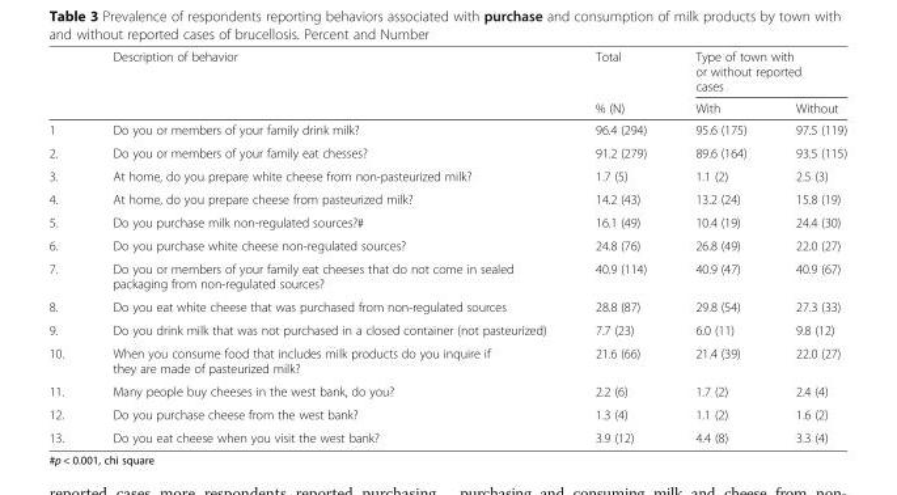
<table><thead><tr><td rowspan="2"></td><td rowspan="2">Description of behavior</td><td rowspan="2">Total % (N)</td><td colspan="2">Type of town with or without reported cases</td></tr><tr><td>With</td><td>Without</td></tr></thead><tbody><tr><td>1</td><td>Do you or members of your family drink milk?</td><td>96.4 (294)</td><td>95.6 (175)</td><td>97.5 (119)</td></tr><tr><td>2.</td><td>Do you or members of your family eat chesses?</td><td>91.2 (279)</td><td>89.6 (164)</td><td>93.5 (115)</td></tr><tr><td>3.</td><td>At home, do you prepare white cheese from non-pasteurized milk?</td><td>1.7 (5)</td><td>1.1 (2)</td><td>2.5 (3)</td></tr><tr><td>4.</td><td>At home, do you prepare cheese from pasteurized milk?</td><td>14.2 (43)</td><td>13.2 (24)</td><td>15.8 (19)</td></tr><tr><td>5.</td><td>Do you purchase milk non-regulated sources?#</td><td>16.1 (49)</td><td>10.4 (19)</td><td>24.4 (30)</td></tr><tr><td>6.</td><td>Do you purchase white cheese non-regulated sources?</td><td>24.8 (76)</td><td>26.8 (49)</td><td>22.0 (27)</td></tr><tr><td>7.</td><td>Do you or members of your family eat cheeses that do not come in sealed packaging from non-regulated sources?</td><td>40.9 (114)</td><td>40.9 (47)</td><td>40.9 (67)</td></tr><tr><td>8.</td><td>Do you eat white cheese that was purchased from non-regulated sources</td><td>28.8 (87)</td><td>29.8 (54)</td><td>27.3 (33)</td></tr><tr><td>9.</td><td>Do you drink milk that was not purchased in a closed container (not pasteurized)</td><td>7.7 (23)</td><td>6.0 (11)</td><td>9.8 (12)</td></tr><tr><td>10.</td><td>When you consume food that includes milk products do you inquire if they are made of pasteurized milk?</td><td>21.6 (66)</td><td>21.4 (39)</td><td>22.0 (27)</td></tr><tr><td>11.</td><td>Many people buy cheeses in the west bank, do you?</td><td>2.2 (6)</td><td>1.7 (2)</td><td>2.4 (4)</td></tr><tr><td>12.</td><td>Do you purchase cheese from the west bank?</td><td>1.3 (4)</td><td>1.1 (2)</td><td>1.6 (2)</td></tr><tr><td>13.</td><td>Do you eat cheese when you visit the west bank?</td><td>3.9 (12)</td><td>4.4 (8)</td><td>3.3 (4)</td></tr></tbody></table>